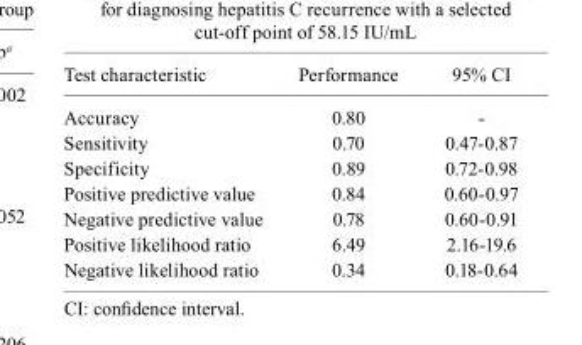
<table><thead><tr><td>Test characteristic</td><td>Performance</td><td>95% CI</td></tr></thead><tbody><tr><td>Accuracy</td><td>0.80</td><td>-</td></tr><tr><td>Sensitivity</td><td>0.70</td><td>0.47-0.87</td></tr><tr><td>Specificity</td><td>0.89</td><td>0.72-0.98</td></tr><tr><td>Positive predictive value</td><td>0.84</td><td>0.60-0.97</td></tr><tr><td>Negative predictive value</td><td>0.78</td><td>0.60-0.91</td></tr><tr><td>Positive likelihood ratio</td><td>6.49</td><td>2.16-19.6</td></tr><tr><td>Negative likelihood ratio</td><td>0.34</td><td>0.18-0.64</td></tr></tbody></table>